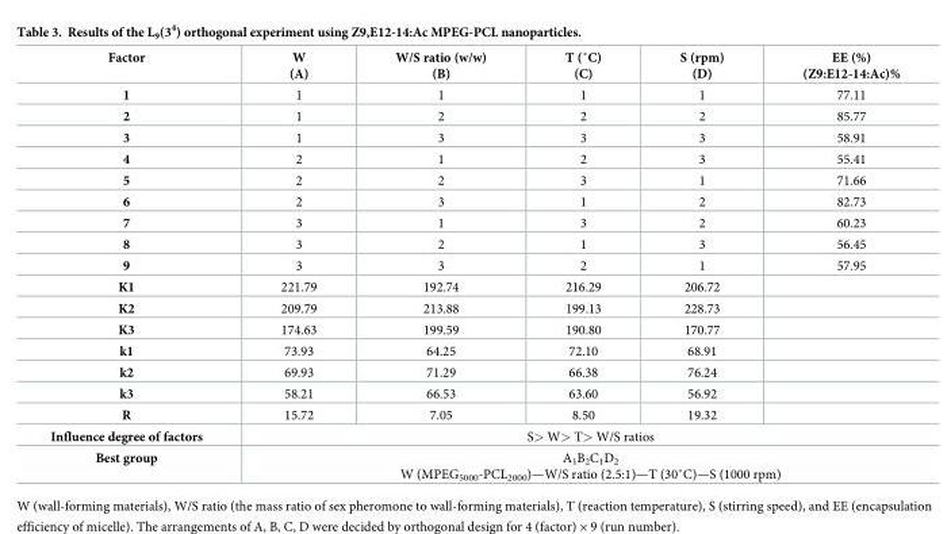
<table><thead><tr><td>Factor</td><td>W (A)</td><td>W/S ratio (w/w) (B)</td><td>T (˚C) (C)</td><td>S (rpm) (D)</td><td>EE (%) (Z9:E12-14:Ac)%</td></tr></thead><tbody><tr><td>1</td><td>1</td><td>1</td><td>1</td><td>1</td><td>77.11</td></tr><tr><td>2</td><td>1</td><td>2</td><td>2</td><td>2</td><td>85.77</td></tr><tr><td>3</td><td>1</td><td>3</td><td>3</td><td>3</td><td>58.91</td></tr><tr><td>4</td><td>2</td><td>1</td><td>2</td><td>3</td><td>55.41</td></tr><tr><td>5</td><td>2</td><td>2</td><td>3</td><td>1</td><td>71.66</td></tr><tr><td>6</td><td>2</td><td>3</td><td>1</td><td>2</td><td>82.73</td></tr><tr><td>7</td><td>3</td><td>1</td><td>3</td><td>2</td><td>60.23</td></tr><tr><td>8</td><td>3</td><td>2</td><td>1</td><td>3</td><td>56.45</td></tr><tr><td>9</td><td>3</td><td>3</td><td>2</td><td>1</td><td>57.95</td></tr><tr><td>K1</td><td>221.79</td><td>192.74</td><td>216.29</td><td>206.72</td><td></td></tr><tr><td>K2</td><td>209.79</td><td>213.88</td><td>199.13</td><td>228.73</td><td></td></tr><tr><td>K3</td><td>174.63</td><td>199.59</td><td>190.80</td><td>170.77</td><td></td></tr><tr><td>k1</td><td>73.93</td><td>64.25</td><td>72.10</td><td>68.91</td><td></td></tr><tr><td>k2</td><td>69.93</td><td>71.29</td><td>66.38</td><td>76.24</td><td></td></tr><tr><td>k3</td><td>58.21</td><td>66.53</td><td>63.60</td><td>56.92</td><td></td></tr><tr><td>R</td><td>15.72</td><td>7.05</td><td>8.50</td><td>19.32</td><td></td></tr><tr><td>Influence degree of factors</td><td colspan="5">S&gt; W&gt; T&gt; W/S ratios</td></tr><tr><td>Best group</td><td colspan="5">A1B2C1D2 W (MPEG5000-PCL2000)—W/S ratio (2.5:1)—T (30˚C)—S (1000 rpm)</td></tr></tbody></table>